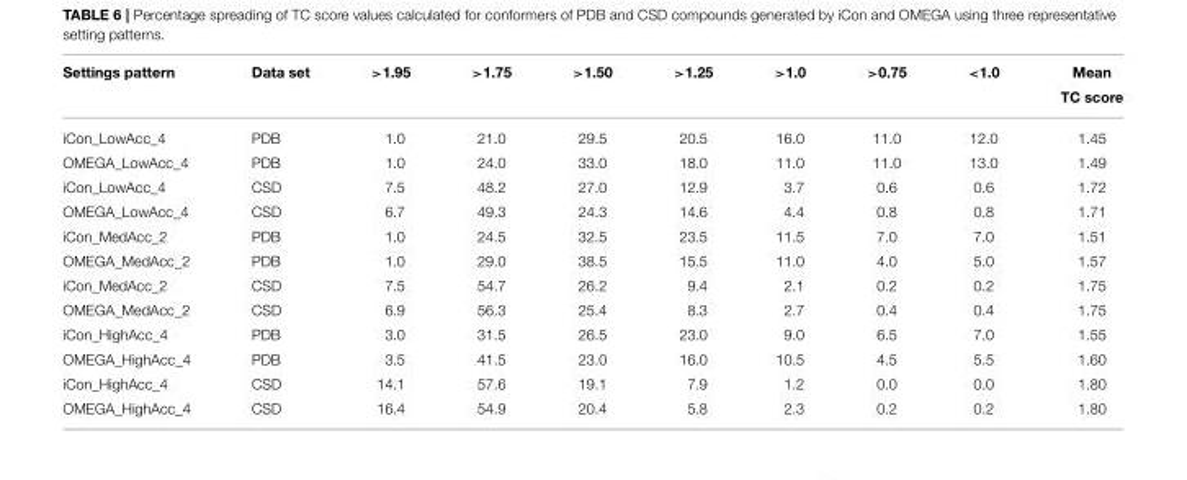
<table><thead><tr><td rowspan="2">Settings pattern</td><td rowspan="2">Data set</td><td rowspan="2">&gt;1.95</td><td rowspan="2">&gt;1.75</td><td rowspan="2">&gt;1.50</td><td rowspan="2">&gt;1.25</td><td rowspan="2">&gt;1.0</td><td rowspan="2">&gt;0.75</td><td rowspan="2">&lt;1.0</td><td rowspan="2">Mean TC score</td></tr><tr></tr></thead><tbody><tr><td>iCon_LowAcc_4</td><td>PDB</td><td>1.0</td><td>21.0</td><td>29.5</td><td>20.5</td><td>16.0</td><td>11.0</td><td>12.0</td><td>1.45</td></tr><tr><td>OMEGA_LowAcc_4</td><td>PDB</td><td>1.0</td><td>24.0</td><td>33.0</td><td>18.0</td><td>11.0</td><td>11.0</td><td>13.0</td><td>1.49</td></tr><tr><td>iCon_LowAcc_4</td><td>CSD</td><td>7.5</td><td>48.2</td><td>27.0</td><td>12.9</td><td>3.7</td><td>0.6</td><td>0.6</td><td>1.72</td></tr><tr><td>OMEGA_LowAcc_4</td><td>CSD</td><td>6.7</td><td>49.3</td><td>24.3</td><td>14.6</td><td>4.4</td><td>0.8</td><td>0.8</td><td>1.71</td></tr><tr><td>iCon_MedAcc_2</td><td>PDB</td><td>1.0</td><td>24.5</td><td>32.5</td><td>23.5</td><td>11.5</td><td>7.0</td><td>7.0</td><td>1.51</td></tr><tr><td>OMEGA_MedAcc_2</td><td>PDB</td><td>1.0</td><td>29.0</td><td>38.5</td><td>15.5</td><td>11.0</td><td>4.0</td><td>5.0</td><td>1.57</td></tr><tr><td>iCon_MedAcc_2</td><td>CSD</td><td>7.5</td><td>54.7</td><td>26.2</td><td>9.4</td><td>2.1</td><td>0.2</td><td>0.2</td><td>1.75</td></tr><tr><td>OMEGA_MedAcc_2</td><td>CSD</td><td>6.9</td><td>56.3</td><td>25.4</td><td>8.3</td><td>2.7</td><td>0.4</td><td>0.4</td><td>1.75</td></tr><tr><td>iCon_HighAcc_4</td><td>PDB</td><td>3.0</td><td>31.5</td><td>26.5</td><td>23.0</td><td>9.0</td><td>6.5</td><td>7.0</td><td>1.55</td></tr><tr><td>OMEGA_HighAcc_4</td><td>PDB</td><td>3.5</td><td>41.5</td><td>23.0</td><td>16.0</td><td>10.5</td><td>4.5</td><td>5.5</td><td>1.60</td></tr><tr><td>iCon_HighAcc_4</td><td>CSD</td><td>14.1</td><td>57.6</td><td>19.1</td><td>7.9</td><td>1.2</td><td>0.0</td><td>0.0</td><td>1.80</td></tr><tr><td>OMEGA_HighAcc_4</td><td>CSD</td><td>16.4</td><td>54.9</td><td>20.4</td><td>5.8</td><td>2.3</td><td>0.2</td><td>0.2</td><td>1.80</td></tr></tbody></table>